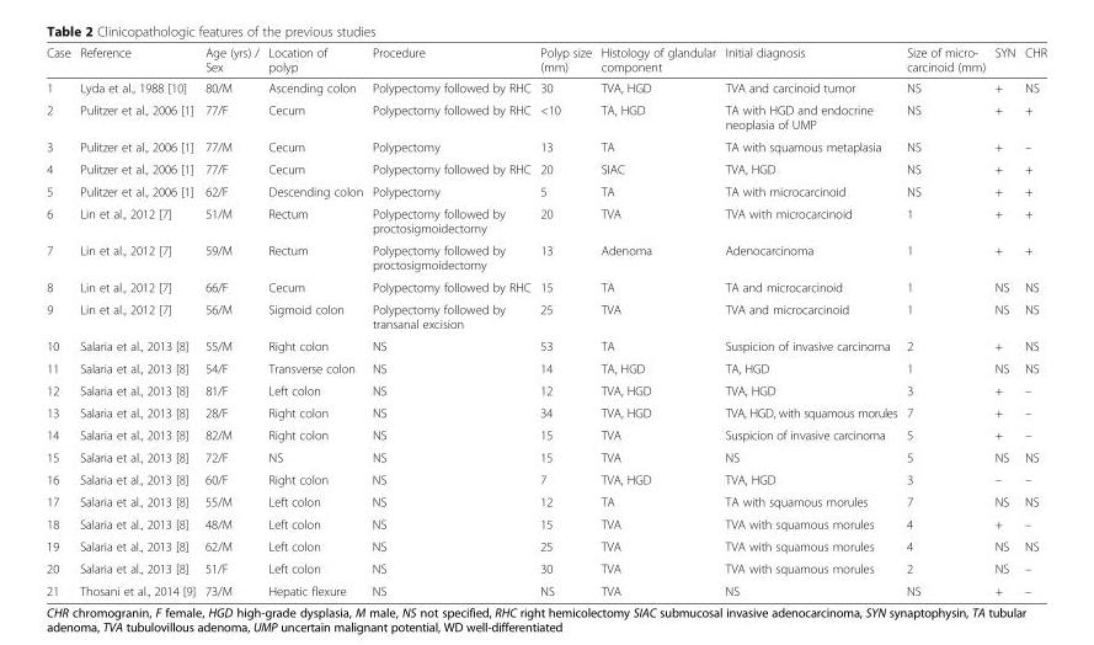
<table><thead><tr><td>Case</td><td>Reference</td><td>Age (yrs) / Sex</td><td>Location of polyp</td><td>Procedure</td><td>Polyp size (mm)</td><td>Histology of glandular component</td><td>Initial diagnosis</td><td>Size of micro- carcinoid (mm)</td><td>SYN</td><td>CHR</td></tr></thead><tbody><tr><td>1</td><td>Lyda et al., 1988 [10]</td><td>80/M</td><td>Ascending colon</td><td>Polypectomy followed by RHC</td><td>30</td><td>TVA, HGD</td><td>TVA and carcinoid tumor</td><td>NS</td><td>+</td><td>NS</td></tr><tr><td>2</td><td>Pulitzer et al., 2006 [1]</td><td>77/F</td><td>Cecum</td><td>Polypectomy followed by RHC</td><td>&lt;10</td><td>TA, HGD</td><td>TA with HGD and endocrine neoplasia of UMP</td><td>NS</td><td>+</td><td>+</td></tr><tr><td>3</td><td>Pulitzer et al., 2006 [1]</td><td>77/M</td><td>Cecum</td><td>Polypectomy</td><td>13</td><td>TA</td><td>TA with squamous metaplasia</td><td>NS</td><td>+</td><td>–</td></tr><tr><td>4</td><td>Pulitzer et al., 2006 [1]</td><td>77/F</td><td>Cecum</td><td>Polypectomy followed by RHC</td><td>20</td><td>SIAC</td><td>TVA, HGD</td><td>NS</td><td>+</td><td>+</td></tr><tr><td>5</td><td>Pulitzer et al., 2006 [1]</td><td>62/F</td><td>Descending colon</td><td>Polypectomy</td><td>5</td><td>TA</td><td>TA with microcarcinoid</td><td>NS</td><td>+</td><td>+</td></tr><tr><td>6</td><td>Lin et al., 2012 [7]</td><td>51/M</td><td>Rectum</td><td>Polypectomy followed by proctosigmoidectomy</td><td>20</td><td>TVA</td><td>TVA with microcarcinoid</td><td>1</td><td>+</td><td>+</td></tr><tr><td>7</td><td>Lin et al., 2012 [7]</td><td>59/M</td><td>Rectum</td><td>Polypectomy followed by proctosigmoidectomy</td><td>13</td><td>Adenoma</td><td>Adenocarcinoma</td><td>1</td><td>+</td><td>+</td></tr><tr><td>8</td><td>Lin et al., 2012 [7]</td><td>66/F</td><td>Cecum</td><td>Polypectomy followed by RHC</td><td>15</td><td>TA</td><td>TA and microcarcinoid</td><td>1</td><td>NS</td><td>NS</td></tr><tr><td>9</td><td>Lin et al., 2012 [7]</td><td>56/M</td><td>Sigmoid colon</td><td>Polypectomy followed by transanal excision</td><td>25</td><td>TVA</td><td>TVA and microcarcinoid</td><td>1</td><td>NS</td><td>NS</td></tr><tr><td>10</td><td>Salaria et al., 2013 [8]</td><td>55/M</td><td>Right colon</td><td>NS</td><td>53</td><td>TA</td><td>Suspicion of invasive carcinoma</td><td>2</td><td>+</td><td>NS</td></tr><tr><td>11</td><td>Salaria et al., 2013 [8]</td><td>54/F</td><td>Transverse colon</td><td>NS</td><td>14</td><td>TA, HGD</td><td>TA, HGD</td><td>1</td><td>NS</td><td>NS</td></tr><tr><td>12</td><td>Salaria et al., 2013 [8]</td><td>81/F</td><td>Left colon</td><td>NS</td><td>12</td><td>TVA, HGD</td><td>TVA, HGD</td><td>3</td><td>+</td><td>–</td></tr><tr><td>13</td><td>Salaria et al., 2013 [8]</td><td>28/F</td><td>Right colon</td><td>NS</td><td>34</td><td>TVA, HGD</td><td>TVA, HGD, with squamous morules</td><td>7</td><td>+</td><td>–</td></tr><tr><td>14</td><td>Salaria et al., 2013 [8]</td><td>82/M</td><td>Right colon</td><td>NS</td><td>15</td><td>TVA</td><td>Suspicion of invasive carcinoma</td><td>5</td><td>+</td><td>–</td></tr><tr><td>15</td><td>Salaria et al., 2013 [8]</td><td>72/F</td><td>NS</td><td>NS</td><td>15</td><td>TVA</td><td>NS</td><td>5</td><td>NS</td><td>NS</td></tr><tr><td>16</td><td>Salaria et al., 2013 [8]</td><td>60/F</td><td>Right colon</td><td>NS</td><td>7</td><td>TVA, HGD</td><td>TVA, HGD</td><td>3</td><td>–</td><td>–</td></tr><tr><td>17</td><td>Salaria et al., 2013 [8]</td><td>55/M</td><td>Left colon</td><td>NS</td><td>12</td><td>TA</td><td>TA with squamous morules</td><td>7</td><td>NS</td><td>NS</td></tr><tr><td>18</td><td>Salaria et al., 2013 [8]</td><td>48/M</td><td>Left colon</td><td>NS</td><td>15</td><td>TVA</td><td>TVA with squamous morules</td><td>4</td><td>+</td><td>–</td></tr><tr><td>19</td><td>Salaria et al., 2013 [8]</td><td>62/M</td><td>Left colon</td><td>NS</td><td>25</td><td>TVA</td><td>TVA with squamous morules</td><td>4</td><td>NS</td><td>NS</td></tr><tr><td>20</td><td>Salaria et al., 2013 [8]</td><td>51/F</td><td>Left colon</td><td>NS</td><td>30</td><td>TVA</td><td>TVA with squamous morules</td><td>2</td><td>NS</td><td>–</td></tr><tr><td>21</td><td>Thosani et al., 2014 [9]</td><td>73/M</td><td>Hepatic flexure</td><td>NS</td><td>NS</td><td>TVA</td><td>NS</td><td>NS</td><td>+</td><td>–</td></tr></tbody></table>